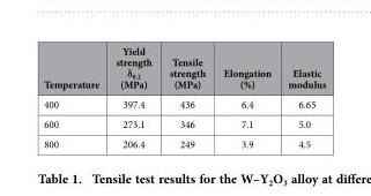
<table><thead><tr><td>Temperature</td><td>Yield strength δ<sub>0.2</sub> (MPa)</td><td>Tensile strength (MPa)</td><td>Elongation (%)</td><td>Elastic modulus</td></tr></thead><tbody><tr><td>400</td><td>397.4</td><td>436</td><td>6.4</td><td>6.65</td></tr><tr><td>600</td><td>273.1</td><td>346</td><td>7.1</td><td>5.0</td></tr><tr><td>800</td><td>206.4</td><td>249</td><td>3.9</td><td>4.5</td></tr></tbody></table>